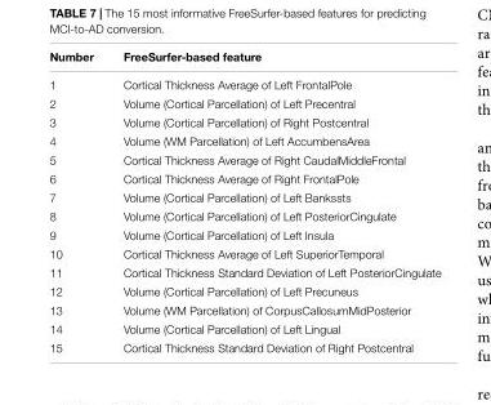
<table><thead><tr><td>Number</td><td>FreeSurfer-based feature</td></tr></thead><tbody><tr><td>1</td><td>Cortical Thickness Average of Left FrontalPole</td></tr><tr><td>2</td><td>Volume (Cortical Parcellation) of Left Precentral</td></tr><tr><td>3</td><td>Volume (Cortical Parcellation) of Right Postcentral</td></tr><tr><td>4</td><td>Volume (WM Parcellation) of Left AccumbensArea</td></tr><tr><td>5</td><td>Cortical Thickness Average of Right CaudalMiddleFrontal</td></tr><tr><td>6</td><td>Cortical Thickness Average of Right FrontalPole</td></tr><tr><td>7</td><td>Volume (Cortical Parcellation) of Left Bankssts</td></tr><tr><td>8</td><td>Volume (Cortical Parcellation) of Left PosteriorCingulate</td></tr><tr><td>9</td><td>Volume (Cortical Parcellation) of Left Insula</td></tr><tr><td>10</td><td>Cortical Thickness Average of Left SuperiorTemporal</td></tr><tr><td>11</td><td>Cortical Thickness Standard Deviation of Left PosteriorCingulate</td></tr><tr><td>12</td><td>Volume (Cortical Parcellation) of Left Precuneus</td></tr><tr><td>13</td><td>Volume (WM Parcellation) of CorpusCallosumMidPosterior</td></tr><tr><td>14</td><td>Volume (Cortical Parcellation) of Left Lingual</td></tr><tr><td>15</td><td>Cortical Thickness Standard Deviation of Right Postcentral</td></tr></tbody></table>